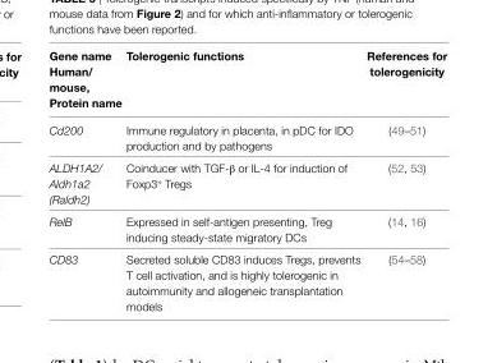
<table><thead><tr><td>Gene name Human/ mouse, Protein name</td><td>Tolerogenic functions</td><td>References for tolerogenicity</td></tr></thead><tbody><tr><td>Cd200</td><td>Immune regulatory in placenta, in pDC for IDO production and by pathogens</td><td>(49–51)</td></tr><tr><td>ALDH1A2/ Aldh1a2 (Raldh2)</td><td>Coinducer with TGF-β or IL-4 for induction of Foxp3<sup>+</sup> Tregs</td><td>(52, 53)</td></tr><tr><td>RelB</td><td>Expressed in self-antigen presenting, Treg inducing steady-state migratory DCs</td><td>(14, 16)</td></tr><tr><td>CD83</td><td>Secreted soluble CD83 induces Tregs, prevents T cell activation, and is highly tolerogenic in autoimmunity and allogeneic transplantation models</td><td>(54–58)</td></tr></tbody></table>